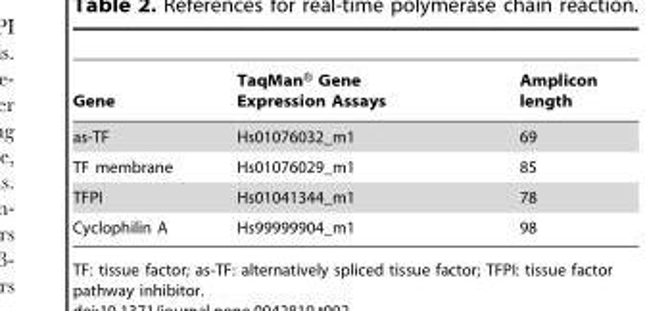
<table><thead><tr><td>Gene</td><td>TaqMan® Gene Expression Assays</td><td>Amplicon length</td></tr></thead><tbody><tr><td>as-TF</td><td>Hs01076032_m1</td><td>69</td></tr><tr><td>TF membrane</td><td>Hs01076029_m1</td><td>85</td></tr><tr><td>TFPI</td><td>Hs01041344_m1</td><td>78</td></tr><tr><td>Cyclophilin A</td><td>Hs99999904_m1</td><td>98</td></tr></tbody></table>